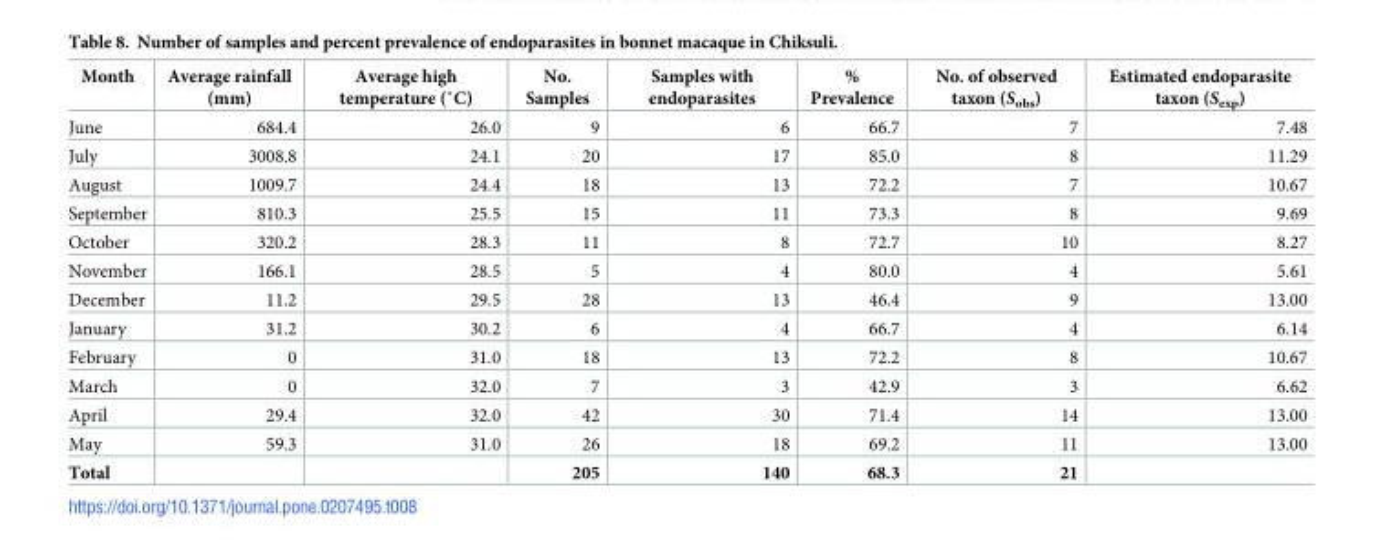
<table><thead><tr><td>Month</td><td>Average rainfall (mm)</td><td>Average high temperature (˚C)</td><td>No. Samples</td><td>Samples with endoparasites</td><td>% Prevalence</td><td>No. of observed taxon (S<sub>obs</sub>)</td><td>Estimated endoparasite taxon (S<sub>exp</sub>)</td></tr></thead><tbody><tr><td>June</td><td>684.4</td><td>26.0</td><td>9</td><td>6</td><td>66.7</td><td>7</td><td>7.48</td></tr><tr><td>July</td><td>3008.8</td><td>24.1</td><td>20</td><td>17</td><td>85.0</td><td>8</td><td>11.29</td></tr><tr><td>August</td><td>1009.7</td><td>24.4</td><td>18</td><td>13</td><td>72.2</td><td>7</td><td>10.67</td></tr><tr><td>September</td><td>810.3</td><td>25.5</td><td>15</td><td>11</td><td>73.3</td><td>8</td><td>9.69</td></tr><tr><td>October</td><td>320.2</td><td>28.3</td><td>11</td><td>8</td><td>72.7</td><td>10</td><td>8.27</td></tr><tr><td>November</td><td>166.1</td><td>28.5</td><td>5</td><td>4</td><td>80.0</td><td>4</td><td>5.61</td></tr><tr><td>December</td><td>11.2</td><td>29.5</td><td>28</td><td>13</td><td>46.4</td><td>9</td><td>13.00</td></tr><tr><td>January</td><td>31.2</td><td>30.2</td><td>6</td><td>4</td><td>66.7</td><td>4</td><td>6.14</td></tr><tr><td>February</td><td>0</td><td>31.0</td><td>18</td><td>13</td><td>72.2</td><td>8</td><td>10.67</td></tr><tr><td>March</td><td>0</td><td>32.0</td><td>7</td><td>3</td><td>42.9</td><td>3</td><td>6.62</td></tr><tr><td>April</td><td>29.4</td><td>32.0</td><td>42</td><td>30</td><td>71.4</td><td>14</td><td>13.00</td></tr><tr><td>May</td><td>59.3</td><td>31.0</td><td>26</td><td>18</td><td>69.2</td><td>11</td><td>13.00</td></tr><tr><td>Total</td><td></td><td></td><td>205</td><td>140</td><td>68.3</td><td>21</td><td></td></tr></tbody></table>